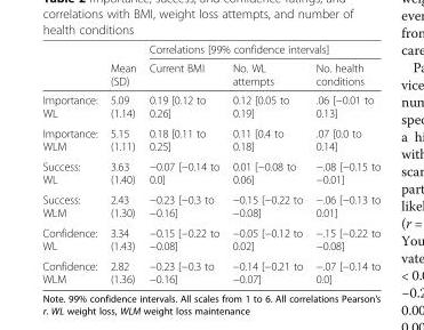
<table><thead><tr><td rowspan="2"></td><td rowspan="2">Mean (SD)</td><td colspan="3">Correlations [99% confidence intervals]</td></tr><tr><td>Current BMI</td><td>No. WL attempts</td><td>No. health conditions</td></tr></thead><tbody><tr><td>Importance: WL</td><td>5.09 (1.14)</td><td>0.19 [0.12 to 0.26]</td><td>0.12 [0.05 to 0.19]</td><td>.06 [−0.01 to 0.13]</td></tr><tr><td>Importance: WLM</td><td>5.15 (1.11)</td><td>0.18 [0.11 to 0.25]</td><td>0.11 [0.4 to 0.18]</td><td>.07 [0.0 to 0.14]</td></tr><tr><td>Success: WL</td><td>3.63 (1.40)</td><td>−0.07 [−0.14 to 0.0]</td><td>0.01 [−0.08 to 0.06]</td><td>−.08 [−0.15 to −0.01]</td></tr><tr><td>Success: WLM</td><td>2.43 (1.30)</td><td>−0.23 [−0.3 to −0.16]</td><td>−0.15 [−0.22 to −0.08]</td><td>−.06 [−0.13 to 0.01]</td></tr><tr><td>Confidence: WL</td><td>3.34 (1.43)</td><td>−0.15 [−0.22 to −0.08]</td><td>−0.05 [−0.12 to 0.02]</td><td>−.15 [−0.22 to −0.08]</td></tr><tr><td>Confidence: WLM</td><td>2.82 (1.36)</td><td>−0.23 [−0.3 to −0.16]</td><td>−0.14 [−0.21 to −0.07]</td><td>−.07 [−0.14 to 0.0]</td></tr></tbody></table>